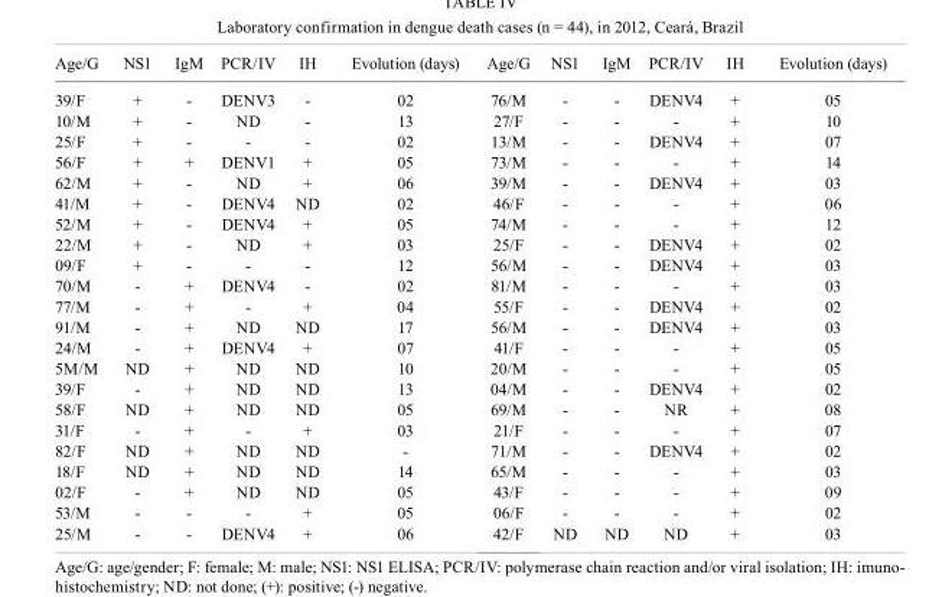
<table><tbody><tr><td>Age/G</td><td>NS1</td><td>IgM</td><td>PCR/IV</td><td>IH</td><td>Evolution (days)</td><td>Age/G</td><td>NS1</td><td>IgM</td><td>PCR/IV</td><td>IH</td><td>Evolution (days)</td></tr><tr><td>39/F</td><td>+</td><td>-</td><td>DENV3</td><td>-</td><td>02</td><td>76/M</td><td>-</td><td>-</td><td>DENV4</td><td>+</td><td>05</td></tr><tr><td>10/M</td><td>+</td><td>-</td><td>ND</td><td>-</td><td>13</td><td>27/F</td><td>-</td><td>-</td><td>-</td><td>+</td><td>10</td></tr><tr><td>25/F</td><td>+</td><td>-</td><td>-</td><td>-</td><td>02</td><td>13/M</td><td>-</td><td>-</td><td>DENV4</td><td>+</td><td>07</td></tr><tr><td>56/F</td><td>+</td><td>+</td><td>DENV1</td><td>+</td><td>05</td><td>73/M</td><td>-</td><td>-</td><td>-</td><td>+</td><td>14</td></tr><tr><td>62/M</td><td>+</td><td>-</td><td>ND</td><td>+</td><td>06</td><td>39/M</td><td>-</td><td>-</td><td>DENV4</td><td>+</td><td>03</td></tr><tr><td>41/M</td><td>+</td><td>-</td><td>DENV4</td><td>ND</td><td>02</td><td>46/F</td><td>-</td><td>-</td><td>-</td><td>+</td><td>06</td></tr><tr><td>52/M</td><td>+</td><td>-</td><td>DENV4</td><td>+</td><td>05</td><td>74/M</td><td>-</td><td>-</td><td>-</td><td>+</td><td>12</td></tr><tr><td>22/M</td><td>+</td><td>-</td><td>ND</td><td>+</td><td>03</td><td>25/F</td><td>-</td><td>-</td><td>DENV4</td><td>+</td><td>02</td></tr><tr><td>09/F</td><td>+</td><td>-</td><td>-</td><td>-</td><td>12</td><td>56/M</td><td>-</td><td>-</td><td>DENV4</td><td>+</td><td>03</td></tr><tr><td>70/M</td><td>-</td><td>+</td><td>DENV4</td><td>-</td><td>02</td><td>81/M</td><td>-</td><td>-</td><td>-</td><td>+</td><td>03</td></tr><tr><td>77/M</td><td>-</td><td>+</td><td>-</td><td>+</td><td>04</td><td>55/F</td><td>-</td><td>-</td><td>DENV4</td><td>+</td><td>02</td></tr><tr><td>91/M</td><td>-</td><td>+</td><td>ND</td><td>ND</td><td>17</td><td>56/M</td><td>-</td><td>-</td><td>DENV4</td><td>+</td><td>03</td></tr><tr><td>24/M</td><td>-</td><td>+</td><td>DENV4</td><td>+</td><td>07</td><td>41/F</td><td>-</td><td>-</td><td>-</td><td>+</td><td>05</td></tr><tr><td>5M/M</td><td>ND</td><td>+</td><td>ND</td><td>ND</td><td>10</td><td>20/M</td><td>-</td><td>-</td><td>-</td><td>+</td><td>05</td></tr><tr><td>39/F</td><td>-</td><td>+</td><td>ND</td><td>ND</td><td>13</td><td>04/M</td><td>-</td><td>-</td><td>DENV4</td><td>+</td><td>02</td></tr><tr><td>58/F</td><td>ND</td><td>+</td><td>ND</td><td>ND</td><td>05</td><td>69/M</td><td>-</td><td>-</td><td>NR</td><td>+</td><td>08</td></tr><tr><td>31/F</td><td>-</td><td>+</td><td>-</td><td>+</td><td>03</td><td>21/F</td><td>-</td><td>-</td><td>-</td><td>+</td><td>07</td></tr><tr><td>82/F</td><td>ND</td><td>+</td><td>ND</td><td>ND</td><td>-</td><td>71/M</td><td>-</td><td>-</td><td>DENV4</td><td>+</td><td>02</td></tr><tr><td>18/F</td><td>ND</td><td>+</td><td>ND</td><td>ND</td><td>14</td><td>65/M</td><td>-</td><td>-</td><td>-</td><td>+</td><td>03</td></tr><tr><td>02/F</td><td>-</td><td>+</td><td>ND</td><td>ND</td><td>05</td><td>43/F</td><td>-</td><td>-</td><td>-</td><td>+</td><td>09</td></tr><tr><td>53/M</td><td>-</td><td>-</td><td>-</td><td>+</td><td>05</td><td>06/F</td><td>-</td><td>-</td><td>-</td><td>+</td><td>02</td></tr><tr><td>25/M</td><td>-</td><td>-</td><td>DENV4</td><td>+</td><td>06</td><td>42/F</td><td>ND</td><td>ND</td><td>ND</td><td>+</td><td>03</td></tr></tbody></table>